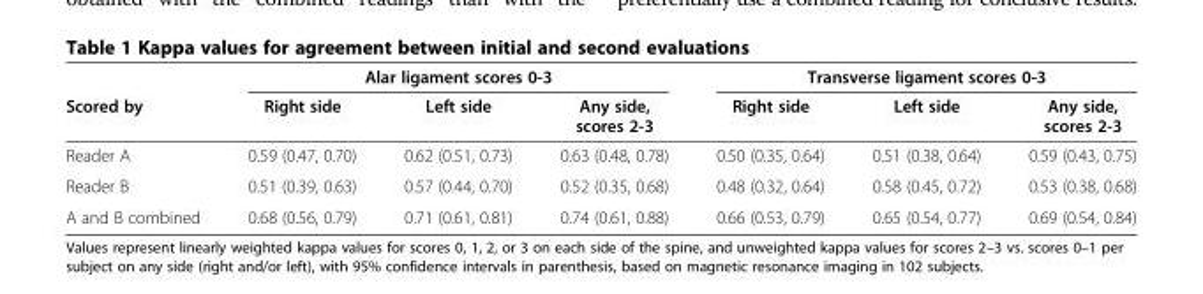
<table><thead><tr><td rowspan="2">Scored by</td><td colspan="3">Alar ligament scores 0-3</td><td colspan="3">Transverse ligament scores 0-3</td></tr><tr><td>Right side</td><td>Left side</td><td>Any side, scores 2-3</td><td>Right side</td><td>Left side</td><td>Any side, scores 2-3</td></tr></thead><tbody><tr><td>Reader A</td><td>0.59 (0.47, 0.70)</td><td>0.62 (0.51, 0.73)</td><td>0.63 (0.48, 0.78)</td><td>0.50 (0.35, 0.64)</td><td>0.51 (0.38, 0.64)</td><td>0.59 (0.43, 0.75)</td></tr><tr><td>Reader B</td><td>0.51 (0.39, 0.63)</td><td>0.57 (0.44, 0.70)</td><td>0.52 (0.35, 0.68)</td><td>0.48 (0.32, 0.64)</td><td>0.58 (0.45, 0.72)</td><td>0.53 (0.38, 0.68)</td></tr><tr><td>A and B combined</td><td>0.68 (0.56, 0.79)</td><td>0.71 (0.61, 0.81)</td><td>0.74 (0.61, 0.88)</td><td>0.66 (0.53, 0.79)</td><td>0.65 (0.54, 0.77)</td><td>0.69 (0.54, 0.84)</td></tr></tbody></table>